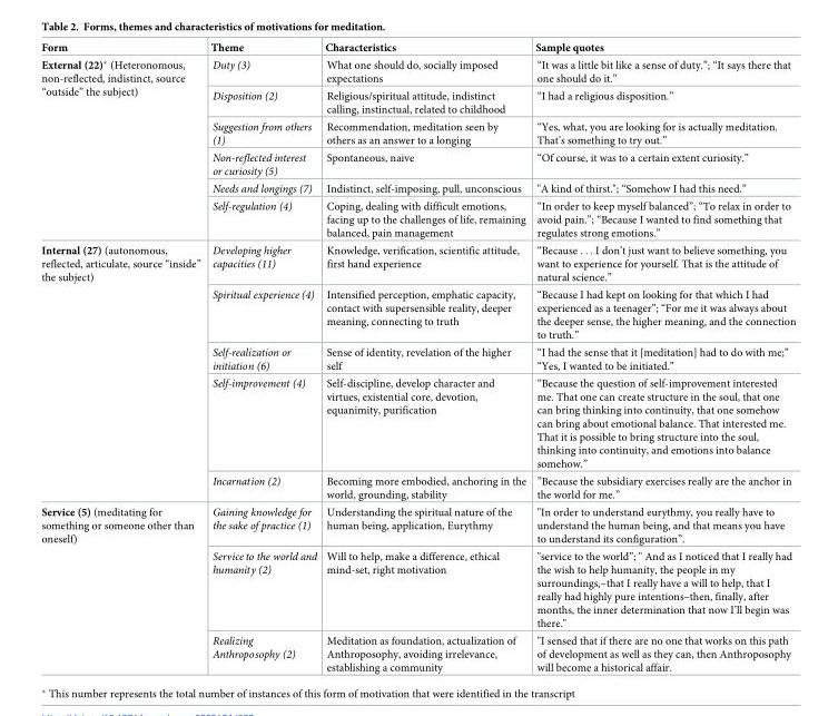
<table><thead><tr><td>Form</td><td>Theme</td><td>Characteristics</td><td>Sample quotes</td></tr></thead><tbody><tr><td rowspan="6">External (22)* (Heteronomous, non-reflected, indistinct, source “outside” the subject)</td><td>Duty (3)</td><td>What one should do, socially imposed expectations</td><td>“It was a little bit like a sense of duty.”; “It says there that one should do it.”</td></tr><tr><td>Disposition (2)</td><td>Religious/spiritual attitude, indistinct calling, instinctual, related to childhood</td><td>“I had a religious disposition.”</td></tr><tr><td>Suggestion from others (1)</td><td>Recommendation, meditation seen by others as an answer to a longing</td><td>“Yes, what, you are looking for is actually meditation. That’s something to try out.”</td></tr><tr><td>Non-reflected interest or curiosity (5)</td><td>Spontaneous, naive</td><td>“Of course, it was to a certain extent curiosity.”</td></tr><tr><td>Needs and longings (7)</td><td>Indistinct, self-imposing, pull, unconscious</td><td>&quot;A kind of thirst.&quot;; “Somehow I had this need.”</td></tr><tr><td>Self-regulation (4)</td><td>Coping, dealing with difficult emotions, facing up to the challenges of life, remaining balanced, pain management</td><td>“In order to keep myself balanced”; “To relax in order to avoid pain.”; “Because I wanted to find something that regulates strong emotions.”</td></tr><tr><td rowspan="5">Internal (27) (autonomous, reflected, articulate, source “inside” the subject)</td><td>Developing higher capacities (11)</td><td>Knowledge, verification, scientific attitude, first hand experience</td><td>“Because . . . I don’t just want to believe something, you want to experience for yourself. That is the attitude of natural science.”</td></tr><tr><td>Spiritual experience (4)</td><td>Intensified perception, emphatic capacity, contact with supersensible reality, deeper meaning, connecting to truth</td><td>“Because I had kept on looking for that which I had experienced as a teenager”; “For me it was always about the deeper sense, the higher meaning, and the connection to truth.”</td></tr><tr><td>Self-realization or initiation (6)</td><td>Sense of identity, revelation of the higher self</td><td>“I had the sense that it [meditation] had to do with me;” “Yes, I wanted to be initiated.”</td></tr><tr><td>Self-improvement (4)</td><td>Self-discipline, develop character and virtues, existential core, devotion, equanimity, purification</td><td>“Because the question of self-improvement interested me. That one can create structure in the soul, that one can bring thinking into continuity, that one somehow can bring about emotional balance. That interested me. That it is possible to bring structure into the soul, thinking into continuity, and emotions into balance somehow.”</td></tr><tr><td>Incarnation (2)</td><td>Becoming more embodied, anchoring in the world, grounding, stability</td><td>”Because the subsidiary exercises really are the anchor in the world for me.”</td></tr><tr><td rowspan="3">Service (5) (meditating for something or someone other than oneself)</td><td>Gaining knowledge for the sake of practice (1)</td><td>Understanding the spiritual nature of the human being, application, Eurythmy</td><td>&quot;In order to understand eurythmy, you really have to understand the human being, and that means you have to understand its configuration”.</td></tr><tr><td>Service to the world and humanity (2)</td><td>Will to help, make a difference, ethical mind-set, right motivation</td><td>&quot;service to the world”; &quot; And as I noticed that I really had the wish to help humanity, the people in my surroundings,–that I really have a will to help, that I really had highly pure intentions–then, finally, after months, the inner determination that now I’ll begin was there.&quot;</td></tr><tr><td>Realizing Anthroposophy (2)</td><td>Meditation as foundation, actualization of Anthroposophy, avoiding irrelevance, establishing a community</td><td>&quot;I sensed that if there are no one that works on this path of development as well as they can, then Anthroposophy will become a historical affair.</td></tr></tbody></table>